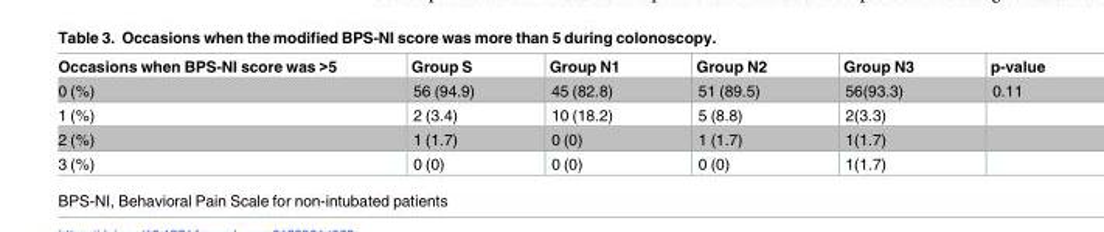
<table><thead><tr><td>Occasions when BPS-NI score was &gt;5</td><td>Group S</td><td>Group N1</td><td>Group N2</td><td>Group N3</td><td>p-value</td></tr></thead><tbody><tr><td>0 (%)</td><td>56 (94.9)</td><td>45 (82.8)</td><td>51 (89.5)</td><td>56(93.3)</td><td>0.11</td></tr><tr><td>1 (%)</td><td>2 (3.4)</td><td>10 (18.2)</td><td>5 (8.8)</td><td>2(3.3)</td><td></td></tr><tr><td>2 (%)</td><td>1 (1.7)</td><td>0 (0)</td><td>1 (1.7)</td><td>1(1.7)</td><td></td></tr><tr><td>3 (%)</td><td>0 (0)</td><td>0 (0)</td><td>0 (0)</td><td>1(1.7)</td><td></td></tr></tbody></table>